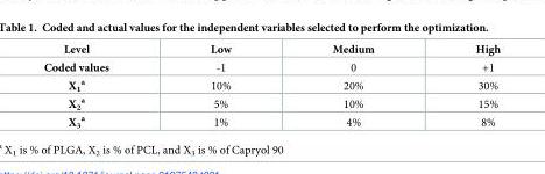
<table><thead><tr><td>Level</td><td>Low</td><td>Medium</td><td>High</td></tr></thead><tbody><tr><td>Coded values</td><td>-1</td><td>0</td><td>+1</td></tr><tr><td>X<sub>1</sub> <sup>a</sup></td><td>10%</td><td>20%</td><td>30%</td></tr><tr><td>X<sub>2</sub> <sup>a</sup></td><td>5%</td><td>10%</td><td>15%</td></tr><tr><td>X<sub>3</sub> <sup>a</sup></td><td>1%</td><td>4%</td><td>8%</td></tr></tbody></table>